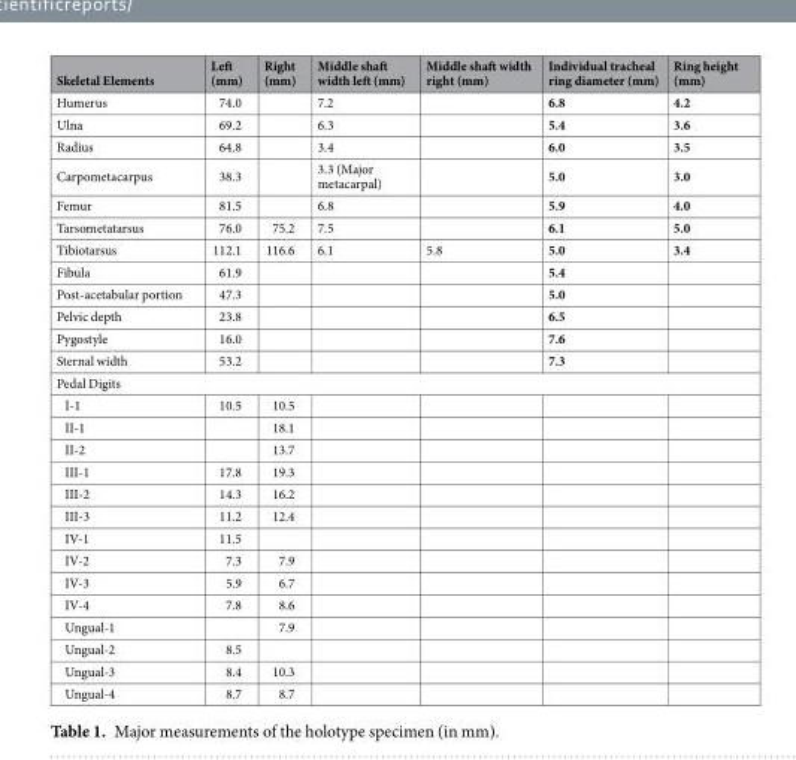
<table><thead><tr><td>Skeletal Elements</td><td>Left (mm)</td><td>Right (mm)</td><td>Middle shaft width left (mm)</td><td>Middle shaft width right (mm)</td><td>Individual tracheal ring diameter (mm)</td><td>Ring height (mm)</td></tr></thead><tbody><tr><td>Humerus</td><td>74.0</td><td></td><td>7.2</td><td></td><td>6.8</td><td>4.2</td></tr><tr><td>Ulna</td><td>69.2</td><td></td><td>6.3</td><td></td><td>5.4</td><td>3.6</td></tr><tr><td>Radius</td><td>64.8</td><td></td><td>3.4</td><td></td><td>6.0</td><td>3.5</td></tr><tr><td>Carpometacarpus</td><td>38.3</td><td></td><td>3.3 (Major metacarpal)</td><td></td><td>5.0</td><td>3.0</td></tr><tr><td>Femur</td><td>81.5</td><td></td><td>6.8</td><td></td><td>5.9</td><td>4.0</td></tr><tr><td>Tarsometatarsus</td><td>76.0</td><td>75.2</td><td>7.5</td><td></td><td>6.1</td><td>5.0</td></tr><tr><td>Tibiotarsus</td><td>112.1</td><td>116.6</td><td>6.1</td><td>5.8</td><td>5.0</td><td>3.4</td></tr><tr><td>Fibula</td><td>61.9</td><td></td><td></td><td></td><td>5.4</td><td></td></tr><tr><td>Post-acetabular portion</td><td>47.3</td><td></td><td></td><td></td><td>5.0</td><td></td></tr><tr><td>Pelvic depth</td><td>23.8</td><td></td><td></td><td></td><td>6.5</td><td></td></tr><tr><td>Pygostyle</td><td>16.0</td><td></td><td></td><td></td><td>7.6</td><td></td></tr><tr><td>Sternal width</td><td>53.2</td><td></td><td></td><td></td><td>7.3</td><td></td></tr><tr><td colspan="7">Pedal Digits</td></tr><tr><td>I-1</td><td>10.5</td><td>10.5</td><td></td><td></td><td></td><td></td></tr><tr><td>II-1</td><td></td><td>18.1</td><td></td><td></td><td></td><td></td></tr><tr><td>II-2</td><td></td><td>13.7</td><td></td><td></td><td></td><td></td></tr><tr><td>III-1</td><td>17.8</td><td>19.3</td><td></td><td></td><td></td><td></td></tr><tr><td>III-2</td><td>14.3</td><td>16.2</td><td></td><td></td><td></td><td></td></tr><tr><td>III-3</td><td>11.2</td><td>12.4</td><td></td><td></td><td></td><td></td></tr><tr><td>IV-1</td><td>11.5</td><td></td><td></td><td></td><td></td><td></td></tr><tr><td>IV-2</td><td>7.3</td><td>7.9</td><td></td><td></td><td></td><td></td></tr><tr><td>IV-3</td><td>5.9</td><td>6.7</td><td></td><td></td><td></td><td></td></tr><tr><td>IV-4</td><td>7.8</td><td>8.6</td><td></td><td></td><td></td><td></td></tr><tr><td>Ungual-1</td><td></td><td>7.9</td><td></td><td></td><td></td><td></td></tr><tr><td>Ungual-2</td><td>8.5</td><td></td><td></td><td></td><td></td><td></td></tr><tr><td>Ungual-3</td><td>8.4</td><td>10.3</td><td></td><td></td><td></td><td></td></tr><tr><td>Ungual-4</td><td>8.7</td><td>8.7</td><td></td><td></td><td></td><td></td></tr></tbody></table>